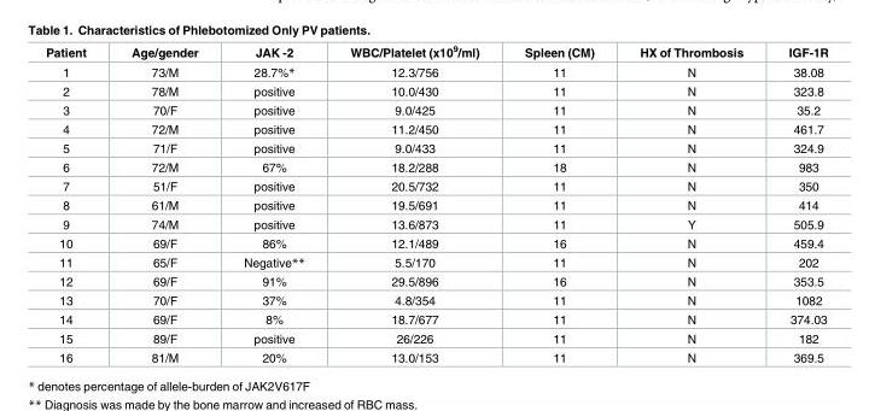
<table><thead><tr><td>Patient</td><td>Age/gender</td><td>JAK -2</td><td>WBC/Platelet (x10<sup>9</sup>/ml)</td><td>Spleen (CM)</td><td>HX of Thrombosis</td><td>IGF-1R</td></tr></thead><tbody><tr><td>1</td><td>73/M</td><td>28.7%*</td><td>12.3/756</td><td>11</td><td>N</td><td>38.08</td></tr><tr><td>2</td><td>78/M</td><td>positive</td><td>10.0/430</td><td>11</td><td>N</td><td>323.8</td></tr><tr><td>3</td><td>70/F</td><td>positive</td><td>9.0/425</td><td>11</td><td>N</td><td>35.2</td></tr><tr><td>4</td><td>72/M</td><td>positive</td><td>11.2/450</td><td>11</td><td>N</td><td>461.7</td></tr><tr><td>5</td><td>71/F</td><td>positive</td><td>9.0/433</td><td>11</td><td>N</td><td>324.9</td></tr><tr><td>6</td><td>72/M</td><td>67%</td><td>18.2/288</td><td>18</td><td>N</td><td>983</td></tr><tr><td>7</td><td>51/F</td><td>positive</td><td>20.5/732</td><td>11</td><td>N</td><td>350</td></tr><tr><td>8</td><td>61/M</td><td>positive</td><td>19.5/691</td><td>11</td><td>N</td><td>414</td></tr><tr><td>9</td><td>74/M</td><td>positive</td><td>13.6/873</td><td>11</td><td>Y</td><td>505.9</td></tr><tr><td>10</td><td>69/F</td><td>86%</td><td>12.1/489</td><td>16</td><td>N</td><td>459.4</td></tr><tr><td>11</td><td>65/F</td><td>Negative**</td><td>5.5/170</td><td>11</td><td>N</td><td>202</td></tr><tr><td>12</td><td>69/F</td><td>91%</td><td>29.5/896</td><td>16</td><td>N</td><td>353.5</td></tr><tr><td>13</td><td>70/F</td><td>37%</td><td>4.8/354</td><td>11</td><td>N</td><td>1082</td></tr><tr><td>14</td><td>69/F</td><td>8%</td><td>18.7/677</td><td>11</td><td>N</td><td>374.03</td></tr><tr><td>15</td><td>89/F</td><td>positive</td><td>26/226</td><td>11</td><td>N</td><td>182</td></tr><tr><td>16</td><td>81/M</td><td>20%</td><td>13.0/153</td><td>11</td><td>N</td><td>369.5</td></tr></tbody></table>